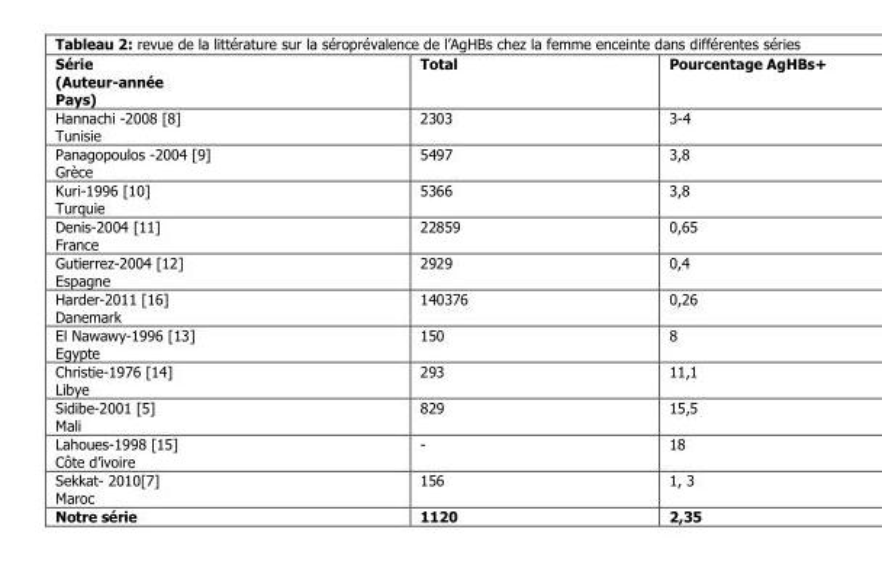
<table><thead><tr><td>Série (Auteur-année Pays)</td><td>Total</td><td>Pourcentage AgHBs+</td></tr></thead><tbody><tr><td>Hannachi -2008 [8] Tunisie</td><td>2303</td><td>3-4</td></tr><tr><td>Panagopoulos -2004 [9] Grèce</td><td>5497</td><td>3,8</td></tr><tr><td>Kuri-1996 [10] Turquie</td><td>5366</td><td>3,8</td></tr><tr><td>Denis-2004 [11] France</td><td>22859</td><td>0,65</td></tr><tr><td>Gutierrez-2004 [12] Espagne</td><td>2929</td><td>0,4</td></tr><tr><td>Harder-2011 [16] Danemark</td><td>140376</td><td>0,26</td></tr><tr><td>El Nawawy-1996 [13] Egypte</td><td>150</td><td>8</td></tr><tr><td>Christie-1976 [14] Libye</td><td>293</td><td>11,1</td></tr><tr><td>Sidibe-2001 [5] Mali</td><td>829</td><td>15,5</td></tr><tr><td>Lahoues-1998 [15] Côte d’ivoire</td><td>-</td><td>18</td></tr><tr><td>Sekkat- 2010[7] Maroc</td><td>156</td><td>1, 3</td></tr><tr><td>Notre série</td><td>1120</td><td>2,35</td></tr></tbody></table>